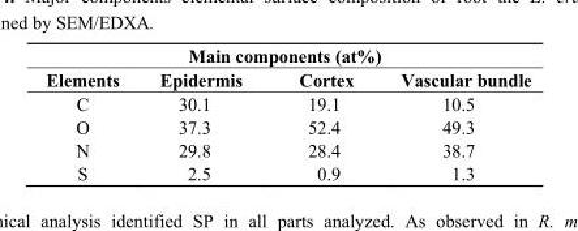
<table><thead><tr><td colspan="4">Main components (at%)</td></tr><tr><td>Elements</td><td>Epidermis</td><td>Cortex</td><td>Vascular bundle</td></tr></thead><tbody><tr><td>C</td><td>30.1</td><td>19.1</td><td>10.5</td></tr><tr><td>O</td><td>37.3</td><td>52.4</td><td>49.3</td></tr><tr><td>N</td><td>29.8</td><td>28.4</td><td>38.7</td></tr><tr><td>S</td><td>2.5</td><td>0.9</td><td>1.3</td></tr></tbody></table>